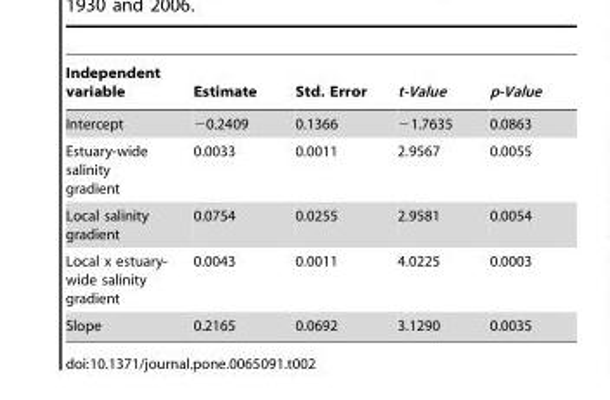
<table><thead><tr><td>Independent variable</td><td>Estimate</td><td>Std. Error</td><td>t-Value</td><td>p-Value</td></tr></thead><tbody><tr><td>Intercept</td><td>−0.2409</td><td>0.1366</td><td>−1.7635</td><td>0.0863</td></tr><tr><td>Estuary-wide salinity gradient</td><td>0.0033</td><td>0.0011</td><td>2.9567</td><td>0.0055</td></tr><tr><td>Local salinity gradient</td><td>0.0754</td><td>0.0255</td><td>2.9581</td><td>0.0054</td></tr><tr><td>Local x estuary- wide salinity gradient</td><td>0.0043</td><td>0.0011</td><td>4.0225</td><td>0.0003</td></tr><tr><td>Slope</td><td>0.2165</td><td>0.0692</td><td>3.1290</td><td>0.0035</td></tr></tbody></table>